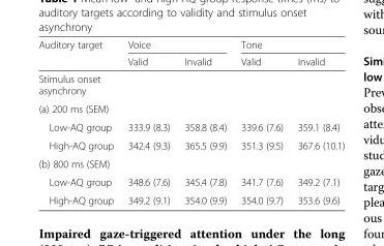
<table><thead><tr><td rowspan="2">Auditory target</td><td colspan="2">Voice</td><td colspan="2">Tone</td></tr><tr><td>Valid</td><td>Invalid</td><td>Valid</td><td>Invalid</td></tr></thead><tbody><tr><td colspan="5">Stimulus onset asynchrony</td></tr><tr><td colspan="5">(a) 200 ms (SEM)</td></tr><tr><td>Low-AQ group</td><td>333.9 (8.3)</td><td>358.8 (8.4)</td><td>339.6 (7.6)</td><td>359.1 (8.4)</td></tr><tr><td>High-AQ group</td><td>342.4 (9.3)</td><td>365.5 (9.9)</td><td>351.3 (9.5)</td><td>367.6 (10.1)</td></tr><tr><td colspan="5">(b) 800 ms (SEM)</td></tr><tr><td>Low-AQ group</td><td>348.6 (7.6)</td><td>345.4 (7.8)</td><td>341.7 (7.6)</td><td>349.2 (7.1)</td></tr><tr><td>High-AQ group</td><td>349.2 (9.1)</td><td>354.0 (9.9)</td><td>354.0 (9.7)</td><td>353.6 (9.6)</td></tr></tbody></table>